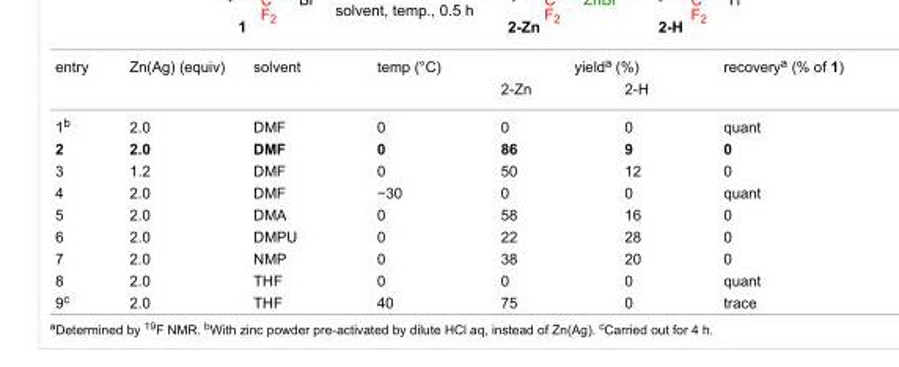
<table><tbody><tr><td rowspan="2">entry</td><td rowspan="2">Zn(Ag) (equiv)</td><td rowspan="2">solvent</td><td rowspan="2">temp (°C)</td><td colspan="2">yield<sup>a</sup> (%)</td><td rowspan="2">recovery<sup>a</sup> (% of 1)</td></tr><tr><td>2-Zn</td><td>2-H</td></tr><tr><td>1<sup>b</sup></td><td>2.0</td><td>DMF</td><td>0</td><td>0</td><td>0</td><td>quant</td></tr><tr><td>2</td><td>2.0</td><td>DMF</td><td>0</td><td>86</td><td>9</td><td>0</td></tr><tr><td>3</td><td>1.2</td><td>DMF</td><td>0</td><td>50</td><td>12</td><td>0</td></tr><tr><td>4</td><td>2.0</td><td>DMF</td><td>−30</td><td>0</td><td>0</td><td>quant</td></tr><tr><td>5</td><td>2.0</td><td>DMA</td><td>0</td><td>58</td><td>16</td><td>0</td></tr><tr><td>6</td><td>2.0</td><td>DMPU</td><td>0</td><td>22</td><td>28</td><td>0</td></tr><tr><td>7</td><td>2.0</td><td>NMP</td><td>0</td><td>38</td><td>20</td><td>0</td></tr><tr><td>8</td><td>2.0</td><td>THF</td><td>0</td><td>0</td><td>0</td><td>quant</td></tr><tr><td>9<sup>c</sup></td><td>2.0</td><td>THF</td><td>40</td><td>75</td><td>0</td><td>trace</td></tr></tbody></table>